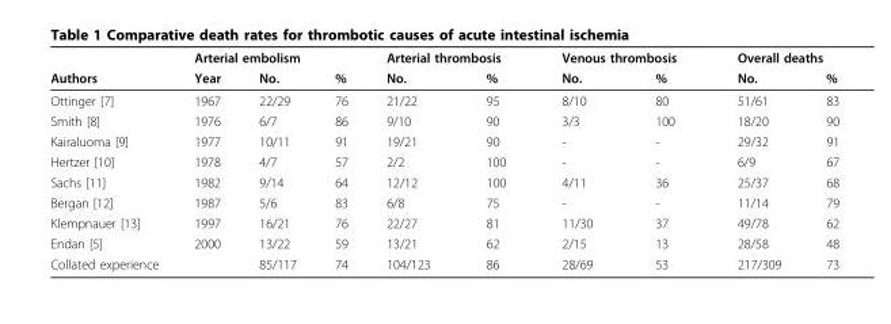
<table><thead><tr><td rowspan="2">Authors</td><td colspan="3">Arterial embolism</td><td colspan="2">Arterial thrombosis</td><td colspan="2">Venous thrombosis</td><td colspan="2">Overall deaths</td></tr><tr><td>Year</td><td>No.</td><td>%</td><td>No.</td><td>%</td><td>No.</td><td>%</td><td>No.</td><td>%</td></tr></thead><tbody><tr><td>Ottinger [7]</td><td>1967</td><td>22/29</td><td>76</td><td>21/22</td><td>95</td><td>8/10</td><td>80</td><td>51/61</td><td>83</td></tr><tr><td>Smith [8]</td><td>1976</td><td>6/7</td><td>86</td><td>9/10</td><td>90</td><td>3/3</td><td>100</td><td>18/20</td><td>90</td></tr><tr><td>Kairaluoma [9]</td><td>1977</td><td>10/11</td><td>91</td><td>19/21</td><td>90</td><td>-</td><td>-</td><td>29/32</td><td>91</td></tr><tr><td>Hertzer [10]</td><td>1978</td><td>4/7</td><td>57</td><td>2/2</td><td>100</td><td>-</td><td>-</td><td>6/9</td><td>67</td></tr><tr><td>Sachs [11]</td><td>1982</td><td>9/14</td><td>64</td><td>12/12</td><td>100</td><td>4/11</td><td>36</td><td>25/37</td><td>68</td></tr><tr><td>Bergan [12]</td><td>1987</td><td>5/6</td><td>83</td><td>6/8</td><td>75</td><td>-</td><td>-</td><td>11/14</td><td>79</td></tr><tr><td>Klempnauer [13]</td><td>1997</td><td>16/21</td><td>76</td><td>22/27</td><td>81</td><td>11/30</td><td>37</td><td>49/78</td><td>62</td></tr><tr><td>Endan [5]</td><td>2000</td><td>13/22</td><td>59</td><td>13/21</td><td>62</td><td>2/15</td><td>13</td><td>28/58</td><td>48</td></tr><tr><td>Collated experience</td><td></td><td>85/117</td><td>74</td><td>104/123</td><td>86</td><td>28/69</td><td>53</td><td>217/309</td><td>73</td></tr></tbody></table>